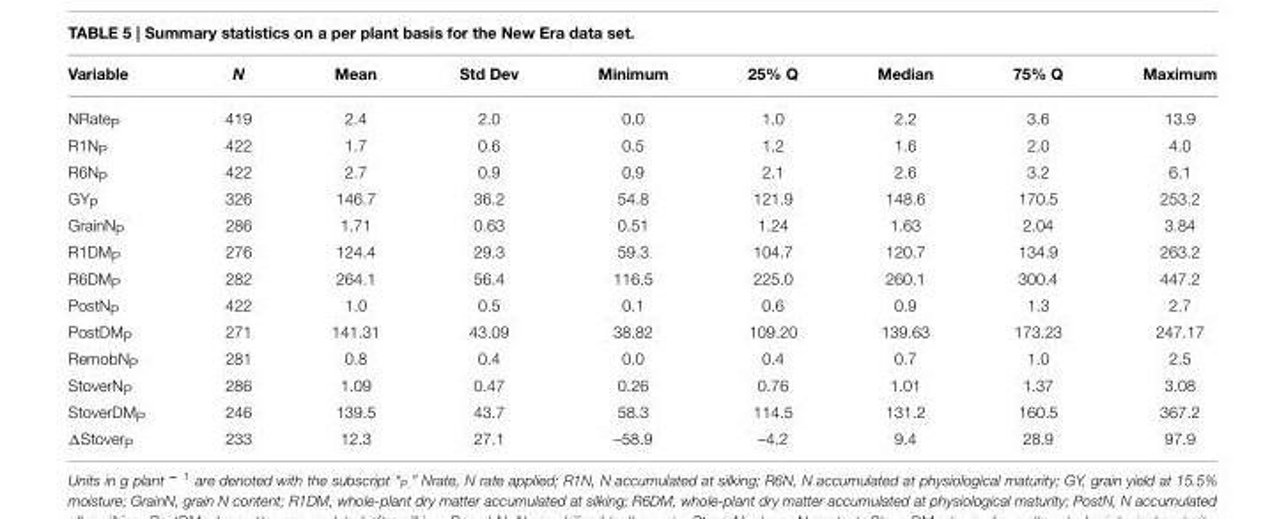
<table><thead><tr><td>Variable</td><td>N</td><td>Mean</td><td>Std Dev</td><td>Minimum</td><td>25% Q</td><td>Median</td><td>75% Q</td><td>Maximum</td></tr></thead><tbody><tr><td>NRate<sub>P</sub></td><td>419</td><td>2.4</td><td>2.0</td><td>0.0</td><td>1.0</td><td>2.2</td><td>3.6</td><td>13.9</td></tr><tr><td>R1N<sub>P</sub></td><td>422</td><td>1.7</td><td>0.6</td><td>0.5</td><td>1.2</td><td>1.6</td><td>2.0</td><td>4.0</td></tr><tr><td>R6N<sub>P</sub></td><td>422</td><td>2.7</td><td>0.9</td><td>0.9</td><td>2.1</td><td>2.6</td><td>3.2</td><td>6.1</td></tr><tr><td>GY<sub>P</sub></td><td>326</td><td>146.7</td><td>36.2</td><td>54.8</td><td>121.9</td><td>148.6</td><td>170.5</td><td>253.2</td></tr><tr><td>GrainN<sub>P</sub></td><td>286</td><td>1.71</td><td>0.63</td><td>0.51</td><td>1.24</td><td>1.63</td><td>2.04</td><td>3.84</td></tr><tr><td>R1DM<sub>P</sub></td><td>276</td><td>124.4</td><td>29.3</td><td>59.3</td><td>104.7</td><td>120.7</td><td>134.9</td><td>263.2</td></tr><tr><td>R6DM<sub>P</sub></td><td>282</td><td>264.1</td><td>56.4</td><td>116.5</td><td>225.0</td><td>260.1</td><td>300.4</td><td>447.2</td></tr><tr><td>PostN<sub>P</sub></td><td>422</td><td>1.0</td><td>0.5</td><td>0.1</td><td>0.6</td><td>0.9</td><td>1.3</td><td>2.7</td></tr><tr><td>PostDM<sub>P</sub></td><td>271</td><td>141.31</td><td>43.09</td><td>38.82</td><td>109.20</td><td>139.63</td><td>173.23</td><td>247.17</td></tr><tr><td>RemobN<sub>P</sub></td><td>281</td><td>0.8</td><td>0.4</td><td>0.0</td><td>0.4</td><td>0.7</td><td>1.0</td><td>2.5</td></tr><tr><td>StoverN<sub>P</sub></td><td>286</td><td>1.09</td><td>0.47</td><td>0.26</td><td>0.76</td><td>1.01</td><td>1.37</td><td>3.08</td></tr><tr><td>StoverDM<sub>P</sub></td><td>246</td><td>139.5</td><td>43.7</td><td>58.3</td><td>114.5</td><td>131.2</td><td>160.5</td><td>367.2</td></tr><tr><td>ΔStover<sub>P</sub></td><td>233</td><td>12.3</td><td>27.1</td><td>–58.9</td><td>–4.2</td><td>9.4</td><td>28.9</td><td>97.9</td></tr></tbody></table>